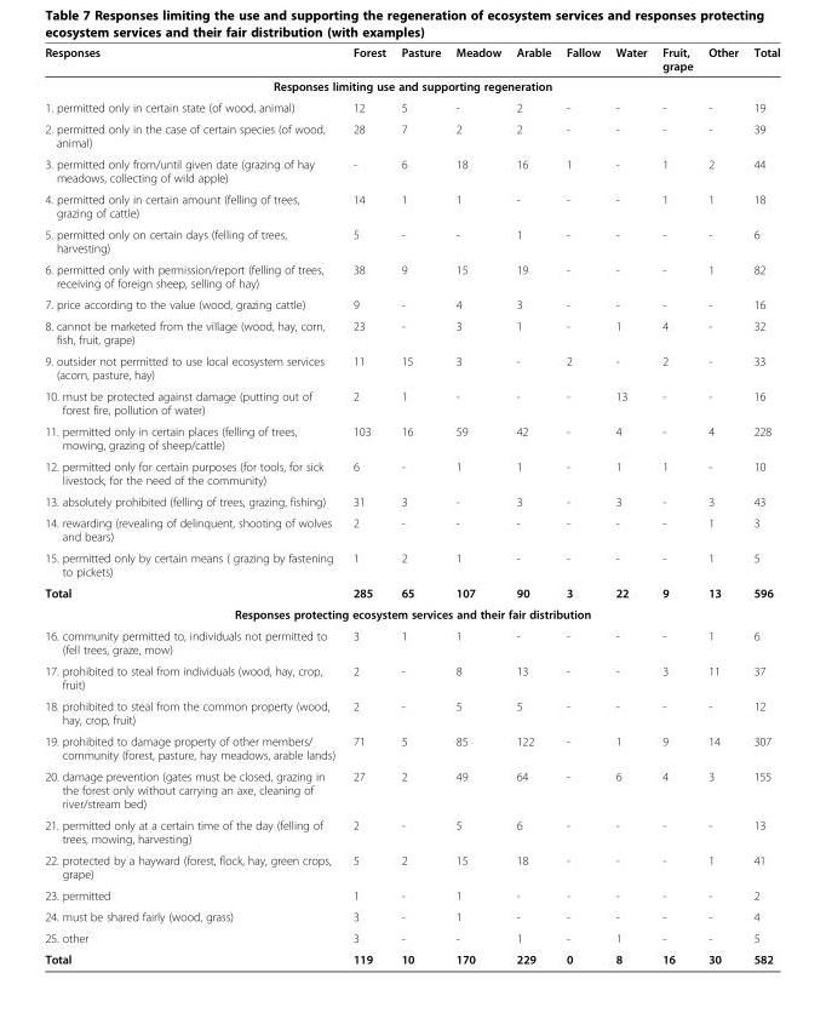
<table><thead><tr><td>Responses</td><td>Forest</td><td>Pasture</td><td>Meadow</td><td>Arable</td><td>Fallow</td><td>Water</td><td>Fruit, grape</td><td>Other</td><td>Total</td></tr></thead><tbody><tr><td colspan="10">Responses limiting use and supporting regeneration</td></tr><tr><td>1. permitted only in certain state (of wood, animal)</td><td>12</td><td>5</td><td>-</td><td>2</td><td>-</td><td>-</td><td>-</td><td>-</td><td>19</td></tr><tr><td>2. permitted only in the case of certain species (of wood, animal)</td><td>28</td><td>7</td><td>2</td><td>2</td><td>-</td><td>-</td><td>-</td><td>-</td><td>39</td></tr><tr><td>3. permitted only from/until given date (grazing of hay meadows, collecting of wild apple)</td><td>-</td><td>6</td><td>18</td><td>16</td><td>1</td><td>-</td><td>1</td><td>2</td><td>44</td></tr><tr><td>4. permitted only in certain amount (felling of trees, grazing of cattle)</td><td>14</td><td>1</td><td>1</td><td>-</td><td>-</td><td>-</td><td>1</td><td>1</td><td>18</td></tr><tr><td>5. permitted only on certain days (felling of trees, harvesting)</td><td>5</td><td>-</td><td>-</td><td>1</td><td>-</td><td>-</td><td>-</td><td>-</td><td>6</td></tr><tr><td>6. permitted only with permission/report (felling of trees, receiving of foreign sheep, selling of hay)</td><td>38</td><td>9</td><td>15</td><td>19</td><td>-</td><td>-</td><td>-</td><td>1</td><td>82</td></tr><tr><td>7. price according to the value (wood, grazing cattle)</td><td>9</td><td>-</td><td>4</td><td>3</td><td>-</td><td>-</td><td>-</td><td>-</td><td>16</td></tr><tr><td>8. cannot be marketed from the village (wood, hay, corn, fish, fruit, grape)</td><td>23</td><td>-</td><td>3</td><td>1</td><td>-</td><td>1</td><td>4</td><td>-</td><td>32</td></tr><tr><td>9. outsider not permitted to use local ecosystem services (acorn, pasture, hay)</td><td>11</td><td>15</td><td>3</td><td>-</td><td>2</td><td>-</td><td>2</td><td>-</td><td>33</td></tr><tr><td>10. must be protected against damage (putting out of forest fire, pollution of water)</td><td>2</td><td>1</td><td>-</td><td>-</td><td>-</td><td>13</td><td>-</td><td>-</td><td>16</td></tr><tr><td>11. permitted only in certain places (felling of trees, mowing, grazing of sheep/cattle)</td><td>103</td><td>16</td><td>59</td><td>42</td><td>-</td><td>4</td><td>-</td><td>4</td><td>228</td></tr><tr><td>12. permitted only for certain purposes (for tools, for sick livestock, for the need of the community)</td><td>6</td><td>-</td><td>1</td><td>1</td><td>-</td><td>1</td><td>1</td><td>-</td><td>10</td></tr><tr><td>13. absolutely prohibited (felling of trees, grazing, fishing)</td><td>31</td><td>3</td><td>-</td><td>3</td><td>-</td><td>3</td><td>-</td><td>3</td><td>43</td></tr><tr><td>14. rewarding (revealing of delinquent, shooting of wolves and bears)</td><td>2</td><td>-</td><td>-</td><td>-</td><td>-</td><td>-</td><td>-</td><td>1</td><td>3</td></tr><tr><td>15. permitted only by certain means ( grazing by fastening to pickets)</td><td>1</td><td>2</td><td>1</td><td>-</td><td>-</td><td>-</td><td>-</td><td>1</td><td>5</td></tr><tr><td>Total</td><td>285</td><td>65</td><td>107</td><td>90</td><td>3</td><td>22</td><td>9</td><td>13</td><td>596</td></tr><tr><td colspan="10">Responses protecting ecosystem services and their fair distribution</td></tr><tr><td>16. community permitted to, individuals not permitted to (fell trees, graze, mow)</td><td>3</td><td>1</td><td>1</td><td>-</td><td>-</td><td>-</td><td>-</td><td>1</td><td>6</td></tr><tr><td>17. prohibited to steal from individuals (wood, hay, crop, fruit)</td><td>2</td><td>-</td><td>8</td><td>13</td><td>-</td><td>-</td><td>3</td><td>11</td><td>37</td></tr><tr><td>18. prohibited to steal from the common property (wood, hay, crop, fruit)</td><td>2</td><td>-</td><td>5</td><td>5</td><td>-</td><td>-</td><td>-</td><td>-</td><td>12</td></tr><tr><td>19. prohibited to damage property of other members/ community (forest, pasture, hay meadows, arable lands)</td><td>71</td><td>5</td><td>85</td><td>122</td><td>-</td><td>1</td><td>9</td><td>14</td><td>307</td></tr><tr><td>20. damage prevention (gates must be closed, grazing in the forest only without carrying an axe, cleaning of river/stream bed)</td><td>27</td><td>2</td><td>49</td><td>64</td><td>-</td><td>6</td><td>4</td><td>3</td><td>155</td></tr><tr><td>21. permitted only at a certain time of the day (felling of trees, mowing, harvesting)</td><td>2</td><td>-</td><td>5</td><td>6</td><td>-</td><td>-</td><td>-</td><td>-</td><td>13</td></tr><tr><td>22. protected by a hayward (forest, flock, hay, green crops, grape)</td><td>5</td><td>2</td><td>15</td><td>18</td><td>-</td><td>-</td><td>-</td><td>1</td><td>41</td></tr><tr><td>23. permitted</td><td>1</td><td>-</td><td>1</td><td>-</td><td>-</td><td>-</td><td>-</td><td>-</td><td>2</td></tr><tr><td>24. must be shared fairly (wood, grass)</td><td>3</td><td>-</td><td>1</td><td>-</td><td>-</td><td>-</td><td>-</td><td>-</td><td>4</td></tr><tr><td>25. other</td><td>3</td><td>-</td><td>-</td><td>1</td><td>-</td><td>1</td><td>-</td><td>-</td><td>5</td></tr><tr><td>Total</td><td>119</td><td>10</td><td>170</td><td>229</td><td>0</td><td>8</td><td>16</td><td>30</td><td>582</td></tr></tbody></table>